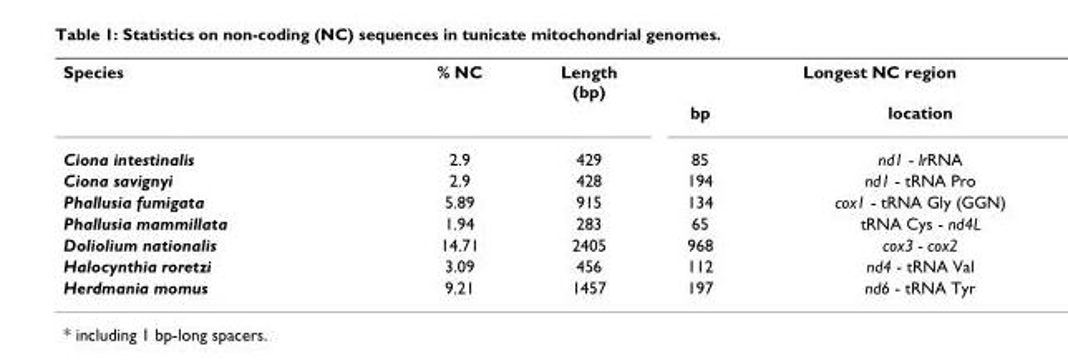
<table><tbody><tr><td rowspan="2">Species</td><td>% NC</td><td>Length (bp)</td><td colspan="2">Longest NC region</td></tr><tr><td></td><td></td><td>bp</td><td>location</td></tr><tr><td>Ciona intestinalis</td><td>2.9</td><td>429</td><td>85</td><td>nd1 - lrRNA</td></tr><tr><td>Ciona savignyi</td><td>2.9</td><td>428</td><td>194</td><td>nd1 - tRNA Pro</td></tr><tr><td>Phallusia fumigata</td><td>5.89</td><td>915</td><td>134</td><td>cox1 - tRNA Gly (GGN)</td></tr><tr><td>Phallusia mammillata</td><td>1.94</td><td>283</td><td>65</td><td>tRNA Cys - nd4L</td></tr><tr><td>Doliolium nationalis</td><td>14.71</td><td>2405</td><td>968</td><td>cox3 - cox2</td></tr><tr><td>Halocynthia roretzi</td><td>3.09</td><td>456</td><td>112</td><td>nd4 - tRNA Val</td></tr><tr><td>Herdmania momus</td><td>9.21</td><td>1457</td><td>197</td><td>nd6 - tRNA Tyr</td></tr></tbody></table>